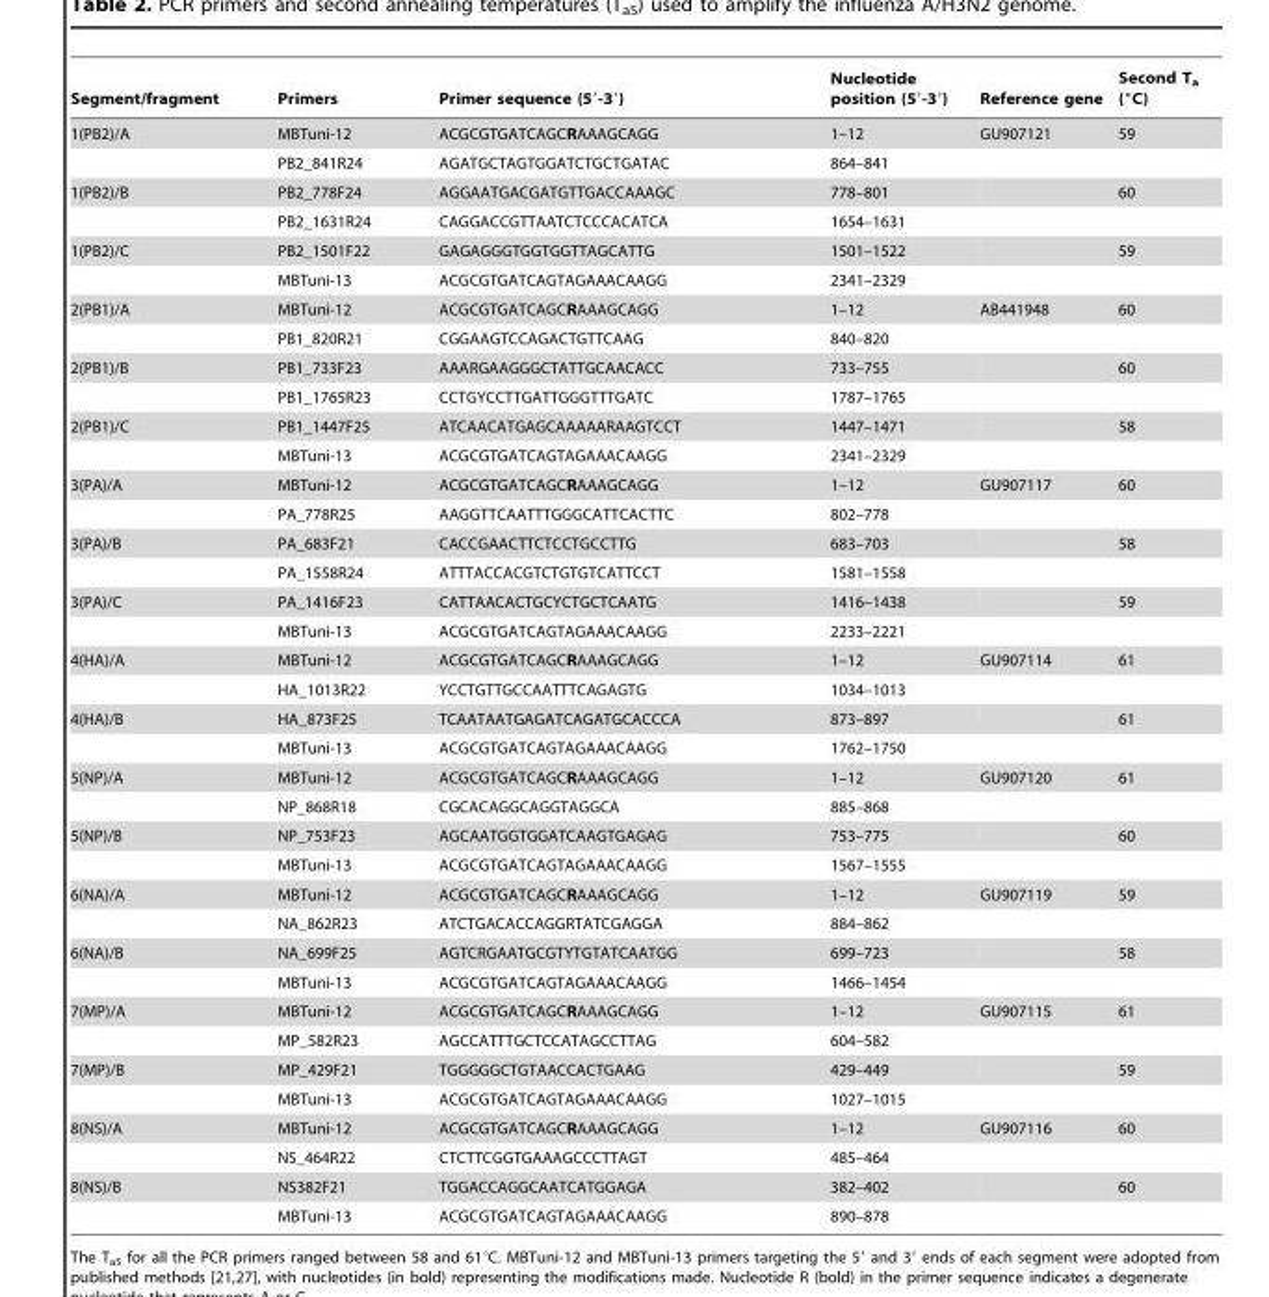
<table><thead><tr><td>Segment/fragment</td><td>Primers</td><td>Primer sequence (5′-3′)</td><td>Nucleotide position (5′-3′)</td><td>Reference gene</td><td>Second T<sub>a</sub> (°C)</td></tr></thead><tbody><tr><td rowspan="2">1(PB2)/A</td><td>MBTuni-12</td><td>ACGCGTGATCAGCRAAAGCAGG</td><td>1–12</td><td>GU907121</td><td>59</td></tr><tr><td>PB2_841R24</td><td>AGATGCTAGTGGATCTGCTGATAC</td><td>864–841</td><td></td><td></td></tr><tr><td rowspan="2">1(PB2)/B</td><td>PB2_778F24</td><td>AGGAATGACGATGTTGACCAAAGC</td><td>778–801</td><td></td><td>60</td></tr><tr><td>PB2_1631R24</td><td>CAGGACCGTTAATCTCCCACATCA</td><td>1654–1631</td><td></td><td></td></tr><tr><td rowspan="2">1(PB2)/C</td><td>PB2_1501F22</td><td>GAGAGGGTGGTGGTTAGCATTG</td><td>1501–1522</td><td></td><td>59</td></tr><tr><td>MBTuni-13</td><td>ACGCGTGATCAGTAGAAACAAGG</td><td>2341–2329</td><td></td><td></td></tr><tr><td rowspan="2">2(PB1)/A</td><td>MBTuni-12</td><td>ACGCGTGATCAGCRAAAGCAGG</td><td>1–12</td><td>AB441948</td><td>60</td></tr><tr><td>PB1_820R21</td><td>CGGAAGTCCAGACTGTTCAAG</td><td>840–820</td><td></td><td></td></tr><tr><td rowspan="2">2(PB1)/B</td><td>PB1_733F23</td><td>AAARGAAGGGCTATTGCAACACC</td><td>733–755</td><td></td><td>60</td></tr><tr><td>PB1_1765R23</td><td>CCTGYCCTTGATTGGGTTTGATC</td><td>1787–1765</td><td></td><td></td></tr><tr><td rowspan="2">2(PB1)/C</td><td>PB1_1447F25</td><td>ATCAACATGAGCAAAAARAAGTCCT</td><td>1447–1471</td><td></td><td>58</td></tr><tr><td>MBTuni-13</td><td>ACGCGTGATCAGTAGAAACAAGG</td><td>2341–2329</td><td></td><td></td></tr><tr><td rowspan="2">3(PA)/A</td><td>MBTuni-12</td><td>ACGCGTGATCAGCRAAAGCAGG</td><td>1–12</td><td>GU907117</td><td>60</td></tr><tr><td>PA_778R25</td><td>AAGGTTCAATTTGGGCATTCACTTC</td><td>802–778</td><td></td><td></td></tr><tr><td rowspan="2">3(PA)/B</td><td>PA_683F21</td><td>CACCGAACTTCTCCTGCCTTG</td><td>683–703</td><td></td><td>58</td></tr><tr><td>PA_1558R24</td><td>ATTTACCACGTCTGTGTCATTCCT</td><td>1581–1558</td><td></td><td></td></tr><tr><td rowspan="2">3(PA)/C</td><td>PA_1416F23</td><td>CATTAACACTGCYCTGCTCAATG</td><td>1416–1438</td><td></td><td>59</td></tr><tr><td>MBTuni-13</td><td>ACGCGTGATCAGTAGAAACAAGG</td><td>2233–2221</td><td></td><td></td></tr><tr><td rowspan="2">4(HA)/A</td><td>MBTuni-12</td><td>ACGCGTGATCAGCRAAAGCAGG</td><td>1–12</td><td>GU907114</td><td>61</td></tr><tr><td>HA_1013R22</td><td>YCCTGTTGCCAATTTCAGAGTG</td><td>1034–1013</td><td></td><td></td></tr><tr><td rowspan="2">4(HA)/B</td><td>HA_873F25</td><td>TCAATAATGAGATCAGATGCACCCA</td><td>873–897</td><td></td><td>61</td></tr><tr><td>MBTuni-13</td><td>ACGCGTGATCAGTAGAAACAAGG</td><td>1762–1750</td><td></td><td></td></tr><tr><td rowspan="2">5(NP)/A</td><td>MBTuni-12</td><td>ACGCGTGATCAGCRAAAGCAGG</td><td>1–12</td><td>GU907120</td><td>61</td></tr><tr><td>NP_868R18</td><td>CGCACAGGCAGGTAGGCA</td><td>885–868</td><td></td><td></td></tr><tr><td rowspan="2">5(NP)/B</td><td>NP_753F23</td><td>AGCAATGGTGGATCAAGTGAGAG</td><td>753–775</td><td></td><td>60</td></tr><tr><td>MBTuni-13</td><td>ACGCGTGATCAGTAGAAACAAGG</td><td>1567–1555</td><td></td><td></td></tr><tr><td rowspan="2">6(NA)/A</td><td>MBTuni-12</td><td>ACGCGTGATCAGCRAAAGCAGG</td><td>1–12</td><td>GU907119</td><td>59</td></tr><tr><td>NA_862R23</td><td>ATCTGACACCAGGRTATCGAGGA</td><td>884–862</td><td></td><td></td></tr><tr><td rowspan="2">6(NA)/B</td><td>NA_699F25</td><td>AGTCRGAATGCGTYTGTATCAATGG</td><td>699–723</td><td></td><td>58</td></tr><tr><td>MBTuni-13</td><td>ACGCGTGATCAGTAGAAACAAGG</td><td>1466–1454</td><td></td><td></td></tr><tr><td rowspan="2">7(MP)/A</td><td>MBTuni-12</td><td>ACGCGTGATCAGCRAAAGCAGG</td><td>1–12</td><td>GU907115</td><td>61</td></tr><tr><td>MP_582R23</td><td>AGCCATTTGCTCCATAGCCTTAG</td><td>604–582</td><td></td><td></td></tr><tr><td rowspan="2">7(MP)/B</td><td>MP_429F21</td><td>TGGGGGCTGTAACCACTGAAG</td><td>429–449</td><td></td><td>59</td></tr><tr><td>MBTuni-13</td><td>ACGCGTGATCAGTAGAAACAAGG</td><td>1027–1015</td><td></td><td></td></tr><tr><td rowspan="2">8(NS)/A</td><td>MBTuni-12</td><td>ACGCGTGATCAGCRAAAGCAGG</td><td>1–12</td><td>GU907116</td><td>60</td></tr><tr><td>NS_464R22</td><td>CTCTTCGGTGAAAGCCCTTAGT</td><td>485–464</td><td></td><td></td></tr><tr><td rowspan="2">8(NS)/B</td><td>NS382F21</td><td>TGGACCAGGCAATCATGGAGA</td><td>382–402</td><td></td><td>60</td></tr><tr><td>MBTuni-13</td><td>ACGCGTGATCAGTAGAAACAAGG</td><td>890–878</td><td></td><td></td></tr></tbody></table>